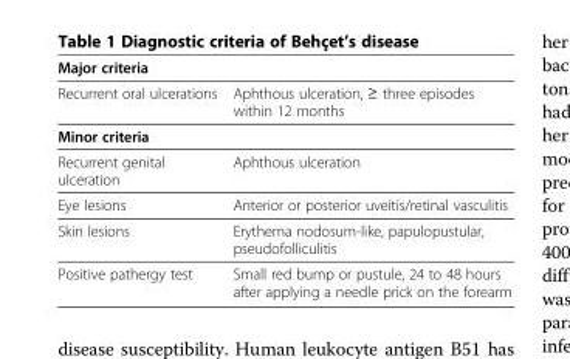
<table><thead><tr><td colspan="2">Major criteria</td></tr><tr><td>Recurrent oral ulcerations</td><td>Aphthous ulceration, ≥ three episodes within 12 months</td></tr></thead><tbody><tr><td colspan="2">Minor criteria</td></tr><tr><td>Recurrent genital ulceration</td><td>Aphthous ulceration</td></tr><tr><td>Eye lesions</td><td>Anterior or posterior uveitis/retinal vasculitis</td></tr><tr><td>Skin lesions</td><td>Erythema nodosum-like, papulopustular, pseudofolliculitis</td></tr><tr><td>Positive pathergy test</td><td>Small red bump or pustule, 24 to 48 hours after applying a needle prick on the forearm</td></tr></tbody></table>